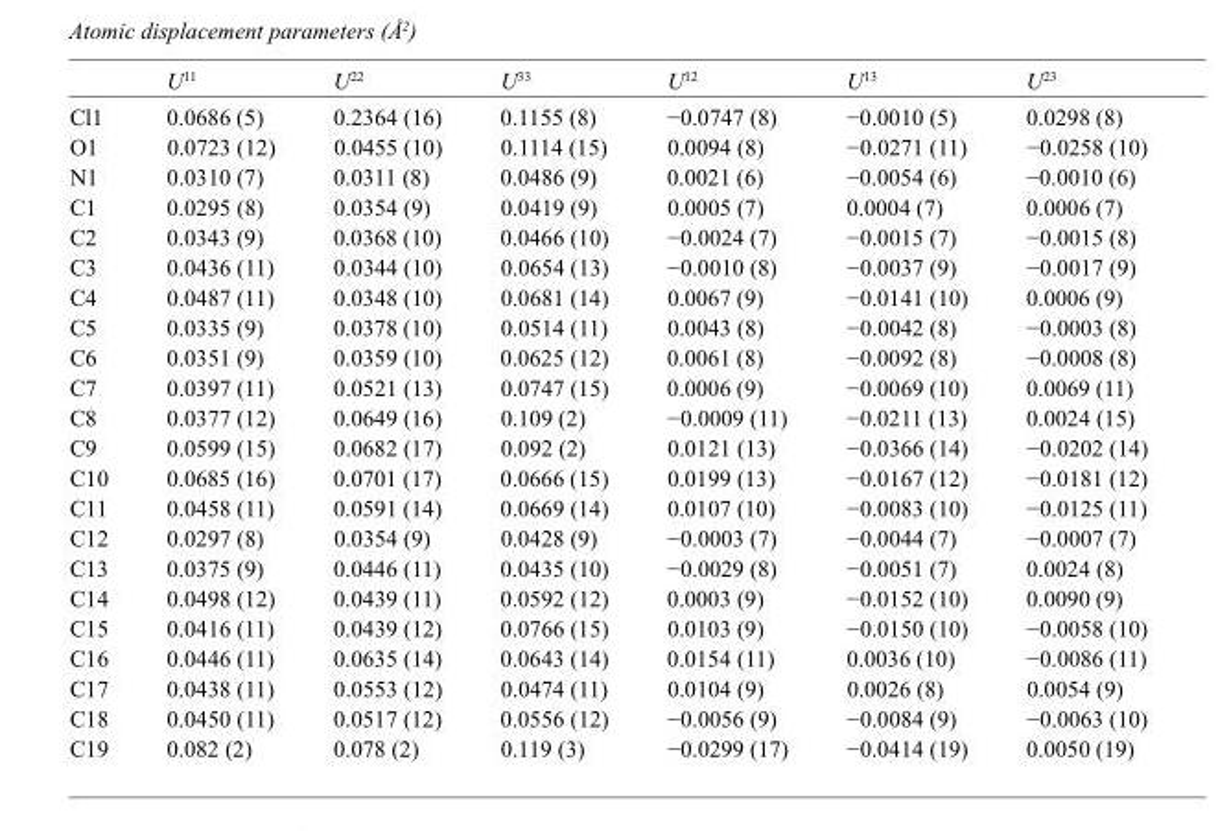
<table><thead><tr><td></td><td>U<sup>11</sup></td><td>U<sup>22</sup></td><td>U<sup>33</sup></td><td>U<sup>12</sup></td><td>U<sup>13</sup></td><td>U<sup>23</sup></td></tr></thead><tbody><tr><td>Cl1</td><td>0.0686 (5)</td><td>0.2364 (16)</td><td>0.1155 (8)</td><td>−0.0747 (8)</td><td>−0.0010 (5)</td><td>0.0298 (8)</td></tr><tr><td>O1</td><td>0.0723 (12)</td><td>0.0455 (10)</td><td>0.1114 (15)</td><td>0.0094 (8)</td><td>−0.0271 (11)</td><td>−0.0258 (10)</td></tr><tr><td>N1</td><td>0.0310 (7)</td><td>0.0311 (8)</td><td>0.0486 (9)</td><td>0.0021 (6)</td><td>−0.0054 (6)</td><td>−0.0010 (6)</td></tr><tr><td>C1</td><td>0.0295 (8)</td><td>0.0354 (9)</td><td>0.0419 (9)</td><td>0.0005 (7)</td><td>0.0004 (7)</td><td>0.0006 (7)</td></tr><tr><td>C2</td><td>0.0343 (9)</td><td>0.0368 (10)</td><td>0.0466 (10)</td><td>−0.0024 (7)</td><td>−0.0015 (7)</td><td>−0.0015 (8)</td></tr><tr><td>C3</td><td>0.0436 (11)</td><td>0.0344 (10)</td><td>0.0654 (13)</td><td>−0.0010 (8)</td><td>−0.0037 (9)</td><td>−0.0017 (9)</td></tr><tr><td>C4</td><td>0.0487 (11)</td><td>0.0348 (10)</td><td>0.0681 (14)</td><td>0.0067 (9)</td><td>−0.0141 (10)</td><td>0.0006 (9)</td></tr><tr><td>C5</td><td>0.0335 (9)</td><td>0.0378 (10)</td><td>0.0514 (11)</td><td>0.0043 (8)</td><td>−0.0042 (8)</td><td>−0.0003 (8)</td></tr><tr><td>C6</td><td>0.0351 (9)</td><td>0.0359 (10)</td><td>0.0625 (12)</td><td>0.0061 (8)</td><td>−0.0092 (8)</td><td>−0.0008 (8)</td></tr><tr><td>C7</td><td>0.0397 (11)</td><td>0.0521 (13)</td><td>0.0747 (15)</td><td>0.0006 (9)</td><td>−0.0069 (10)</td><td>0.0069 (11)</td></tr><tr><td>C8</td><td>0.0377 (12)</td><td>0.0649 (16)</td><td>0.109 (2)</td><td>−0.0009 (11)</td><td>−0.0211 (13)</td><td>0.0024 (15)</td></tr><tr><td>C9</td><td>0.0599 (15)</td><td>0.0682 (17)</td><td>0.092 (2)</td><td>0.0121 (13)</td><td>−0.0366 (14)</td><td>−0.0202 (14)</td></tr><tr><td>C10</td><td>0.0685 (16)</td><td>0.0701 (17)</td><td>0.0666 (15)</td><td>0.0199 (13)</td><td>−0.0167 (12)</td><td>−0.0181 (12)</td></tr><tr><td>C11</td><td>0.0458 (11)</td><td>0.0591 (14)</td><td>0.0669 (14)</td><td>0.0107 (10)</td><td>−0.0083 (10)</td><td>−0.0125 (11)</td></tr><tr><td>C12</td><td>0.0297 (8)</td><td>0.0354 (9)</td><td>0.0428 (9)</td><td>−0.0003 (7)</td><td>−0.0044 (7)</td><td>−0.0007 (7)</td></tr><tr><td>C13</td><td>0.0375 (9)</td><td>0.0446 (11)</td><td>0.0435 (10)</td><td>−0.0029 (8)</td><td>−0.0051 (7)</td><td>0.0024 (8)</td></tr><tr><td>C14</td><td>0.0498 (12)</td><td>0.0439 (11)</td><td>0.0592 (12)</td><td>0.0003 (9)</td><td>−0.0152 (10)</td><td>0.0090 (9)</td></tr><tr><td>C15</td><td>0.0416 (11)</td><td>0.0439 (12)</td><td>0.0766 (15)</td><td>0.0103 (9)</td><td>−0.0150 (10)</td><td>−0.0058 (10)</td></tr><tr><td>C16</td><td>0.0446 (11)</td><td>0.0635 (14)</td><td>0.0643 (14)</td><td>0.0154 (11)</td><td>0.0036 (10)</td><td>−0.0086 (11)</td></tr><tr><td>C17</td><td>0.0438 (11)</td><td>0.0553 (12)</td><td>0.0474 (11)</td><td>0.0104 (9)</td><td>0.0026 (8)</td><td>0.0054 (9)</td></tr><tr><td>C18</td><td>0.0450 (11)</td><td>0.0517 (12)</td><td>0.0556 (12)</td><td>−0.0056 (9)</td><td>−0.0084 (9)</td><td>−0.0063 (10)</td></tr><tr><td>C19</td><td>0.082 (2)</td><td>0.078 (2)</td><td>0.119 (3)</td><td>−0.0299 (17)</td><td>−0.0414 (19)</td><td>0.0050 (19)</td></tr></tbody></table>